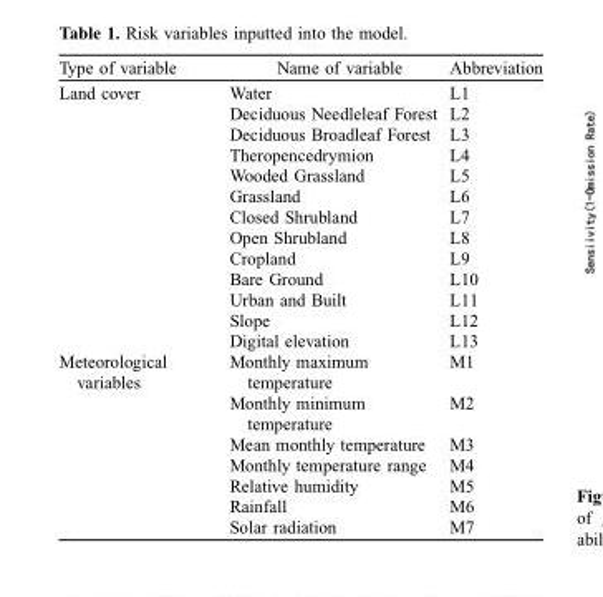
<table><thead><tr><td>Type of variable</td><td>Name of variable</td><td>Abbreviation</td></tr></thead><tbody><tr><td rowspan="13">Land cover</td><td>Water</td><td>L1</td></tr><tr><td>Deciduous Needleleaf Forest</td><td>L2</td></tr><tr><td>Deciduous Broadleaf Forest</td><td>L3</td></tr><tr><td>Theropencedrymion</td><td>L4</td></tr><tr><td>Wooded Grassland</td><td>L5</td></tr><tr><td>Grassland</td><td>L6</td></tr><tr><td>Closed Shrubland</td><td>L7</td></tr><tr><td>Open Shrubland</td><td>L8</td></tr><tr><td>Cropland</td><td>L9</td></tr><tr><td>Bare Ground</td><td>L10</td></tr><tr><td>Urban and Built</td><td>L11</td></tr><tr><td>Slope</td><td>L12</td></tr><tr><td>Digital elevation</td><td>L13</td></tr><tr><td rowspan="7">Meteorological variables</td><td>Monthly maximum temperature</td><td>M1</td></tr><tr><td>Monthly minimum temperature</td><td>M2</td></tr><tr><td>Mean monthly temperature</td><td>M3</td></tr><tr><td>Monthly temperature range</td><td>M4</td></tr><tr><td>Relative humidity</td><td>M5</td></tr><tr><td>Rainfall</td><td>M6</td></tr><tr><td>Solar radiation</td><td>M7</td></tr></tbody></table>